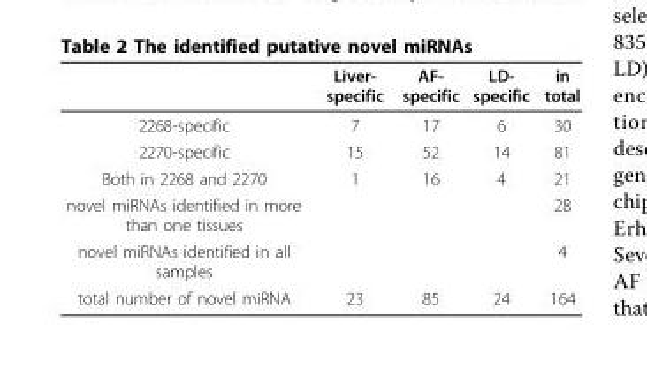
<table><thead><tr><td></td><td>Liver- specific</td><td>AF- specific</td><td>LD- specific</td><td>in total</td></tr></thead><tbody><tr><td>2268-specific</td><td>7</td><td>17</td><td>6</td><td>30</td></tr><tr><td>2270-specific</td><td>15</td><td>52</td><td>14</td><td>81</td></tr><tr><td>Both in 2268 and 2270</td><td>1</td><td>16</td><td>4</td><td>21</td></tr><tr><td>novel miRNAs identified in more than one tissues</td><td></td><td></td><td></td><td>28</td></tr><tr><td>novel miRNAs identified in all samples</td><td></td><td></td><td></td><td>4</td></tr><tr><td>total number of novel miRNA</td><td>23</td><td>85</td><td>24</td><td>164</td></tr></tbody></table>